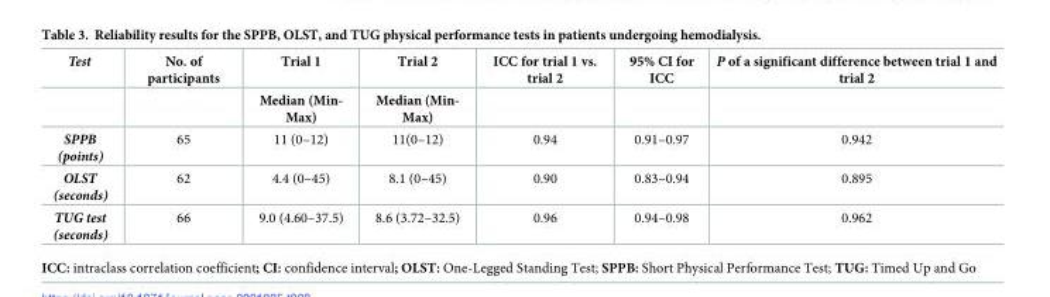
<table><thead><tr><td rowspan="2">Test</td><td rowspan="2">No. of participants</td><td rowspan="2">Trial 1 Median (Min- Max)</td><td rowspan="2">Trial 2 Median (Min- Max)</td><td rowspan="2">ICC for trial 1 vs. trial 2</td><td rowspan="2">95% CI for ICC</td><td rowspan="2">P of a significant difference between trial 1 and trial 2</td></tr><tr></tr></thead><tbody><tr><td>SPPB (points)</td><td>65</td><td>11 (0–12)</td><td>11(0–12)</td><td>0.94</td><td>0.91–0.97</td><td>0.942</td></tr><tr><td>OLST (seconds)</td><td>62</td><td>4.4 (0–45)</td><td>8.1 (0–45)</td><td>0.90</td><td>0.83–0.94</td><td>0.895</td></tr><tr><td>TUG test (seconds)</td><td>66</td><td>9.0 (4.60–37.5)</td><td>8.6 (3.72–32.5)</td><td>0.96</td><td>0.94–0.98</td><td>0.962</td></tr></tbody></table>